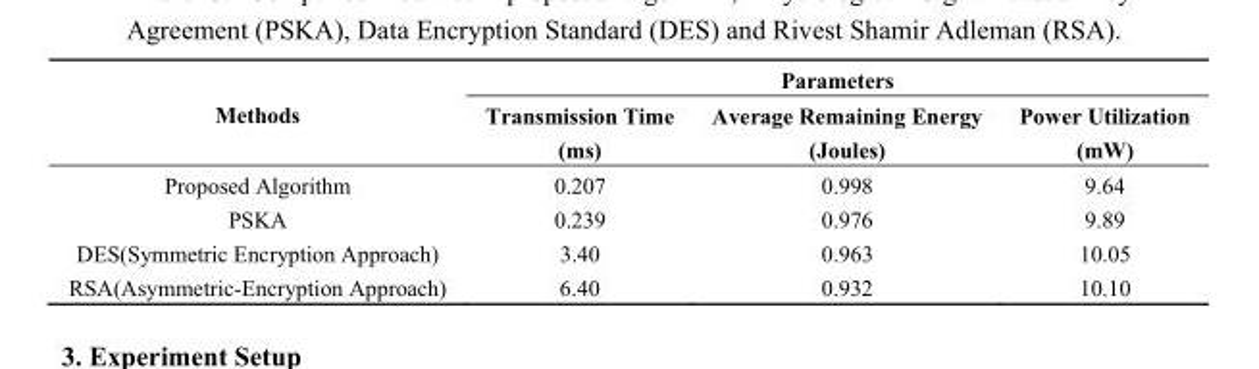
<table><thead><tr><td rowspan="2">Methods</td><td colspan="3">Parameters</td></tr><tr><td>Transmission Time (ms)</td><td>Average Remaining Energy (Joules)</td><td>Power Utilization (mW)</td></tr></thead><tbody><tr><td>Proposed Algorithm</td><td>0.207</td><td>0.998</td><td>9.64</td></tr><tr><td>PSKA</td><td>0.239</td><td>0.976</td><td>9.89</td></tr><tr><td>DES(Symmetric Encryption Approach)</td><td>3.40</td><td>0.963</td><td>10.05</td></tr><tr><td>RSA(Asymmetric-Encryption Approach)</td><td>6.40</td><td>0.932</td><td>10.10</td></tr></tbody></table>